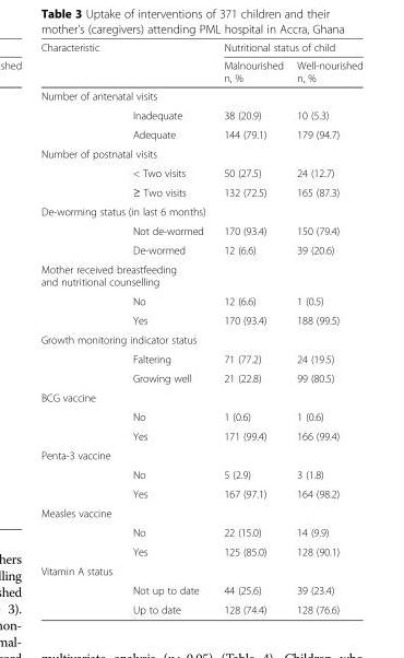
<table><thead><tr><td rowspan="2">Characteristic</td><td rowspan="2"></td><td colspan="2">Nutritional status of child</td></tr><tr><td>Malnourished n, %</td><td>Well-nourished n, %</td></tr></thead><tbody><tr><td colspan="4">Number of antenatal visits</td></tr><tr><td></td><td>Inadequate</td><td>38 (20.9)</td><td>10 (5.3)</td></tr><tr><td></td><td>Adequate</td><td>144 (79.1)</td><td>179 (94.7)</td></tr><tr><td colspan="4">Number of postnatal visits</td></tr><tr><td></td><td>&lt; Two visits</td><td>50 (27.5)</td><td>24 (12.7)</td></tr><tr><td></td><td>≥ Two visits</td><td>132 (72.5)</td><td>165 (87.3)</td></tr><tr><td colspan="4">De-worming status (in last 6 months)</td></tr><tr><td></td><td>Not de-wormed</td><td>170 (93.4)</td><td>150 (79.4)</td></tr><tr><td></td><td>De-wormed</td><td>12 (6.6)</td><td>39 (20.6)</td></tr><tr><td colspan="4">Mother received breastfeeding and nutritional counselling</td></tr><tr><td></td><td>No</td><td>12 (6.6)</td><td>1 (0.5)</td></tr><tr><td></td><td>Yes</td><td>170 (93.4)</td><td>188 (99.5)</td></tr><tr><td colspan="4">Growth monitoring indicator status</td></tr><tr><td></td><td>Faltering</td><td>71 (77.2)</td><td>24 (19.5)</td></tr><tr><td></td><td>Growing well</td><td>21 (22.8)</td><td>99 (80.5)</td></tr><tr><td colspan="4">BCG vaccine</td></tr><tr><td></td><td>No</td><td>1 (0.6)</td><td>1 (0.6)</td></tr><tr><td></td><td>Yes</td><td>171 (99.4)</td><td>166 (99.4)</td></tr><tr><td colspan="4">Penta-3 vaccine</td></tr><tr><td></td><td>No</td><td>5 (2.9)</td><td>3 (1.8)</td></tr><tr><td></td><td>Yes</td><td>167 (97.1)</td><td>164 (98.2)</td></tr><tr><td colspan="4">Measles vaccine</td></tr><tr><td></td><td>No</td><td>22 (15.0)</td><td>14 (9.9)</td></tr><tr><td></td><td>Yes</td><td>125 (85.0)</td><td>128 (90.1)</td></tr><tr><td colspan="4">Vitamin A status</td></tr><tr><td></td><td>Not up to date</td><td>44 (25.6)</td><td>39 (23.4)</td></tr><tr><td></td><td>Up to date</td><td>128 (74.4)</td><td>128 (76.6)</td></tr></tbody></table>